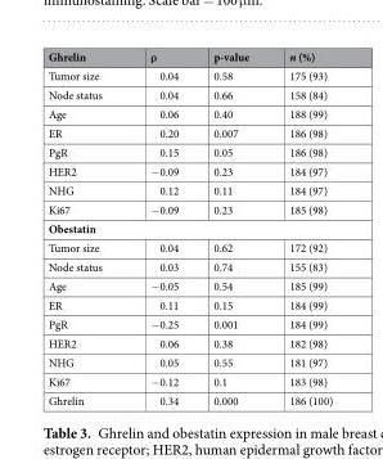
<table><thead><tr><td>Ghrelin</td><td>ρ</td><td>p-value</td><td>n (%)</td></tr></thead><tbody><tr><td>Tumor size</td><td>0.04</td><td>0.58</td><td>175 (93)</td></tr><tr><td>Node status</td><td>0.04</td><td>0.66</td><td>158 (84)</td></tr><tr><td>Age</td><td>0.06</td><td>0.40</td><td>188 (99)</td></tr><tr><td>ER</td><td>0.20</td><td>0.007</td><td>186 (98)</td></tr><tr><td>PgR</td><td>0.15</td><td>0.05</td><td>186 (98)</td></tr><tr><td>HER2</td><td>−0.09</td><td>0.23</td><td>184 (97)</td></tr><tr><td>NHG</td><td>0.12</td><td>0.11</td><td>184 (97)</td></tr><tr><td>Ki67</td><td>−0.09</td><td>0.23</td><td>185 (98)</td></tr><tr><td colspan="4">Obestatin</td></tr><tr><td>Tumor size</td><td>0.04</td><td>0.62</td><td>172 (92)</td></tr><tr><td>Node status</td><td>0.03</td><td>0.74</td><td>155 (83)</td></tr><tr><td>Age</td><td>−0.05</td><td>0.54</td><td>185 (99)</td></tr><tr><td>ER</td><td>0.11</td><td>0.15</td><td>184 (99)</td></tr><tr><td>PgR</td><td>−0.25</td><td>0.001</td><td>184 (99)</td></tr><tr><td>HER2</td><td>0.06</td><td>0.38</td><td>182 (98)</td></tr><tr><td>NHG</td><td>0.05</td><td>0.55</td><td>181 (97)</td></tr><tr><td>Ki67</td><td>−0.12</td><td>0.1</td><td>183 (98)</td></tr><tr><td>Ghrelin</td><td>0.34</td><td>0.000</td><td>186 (100)</td></tr></tbody></table>